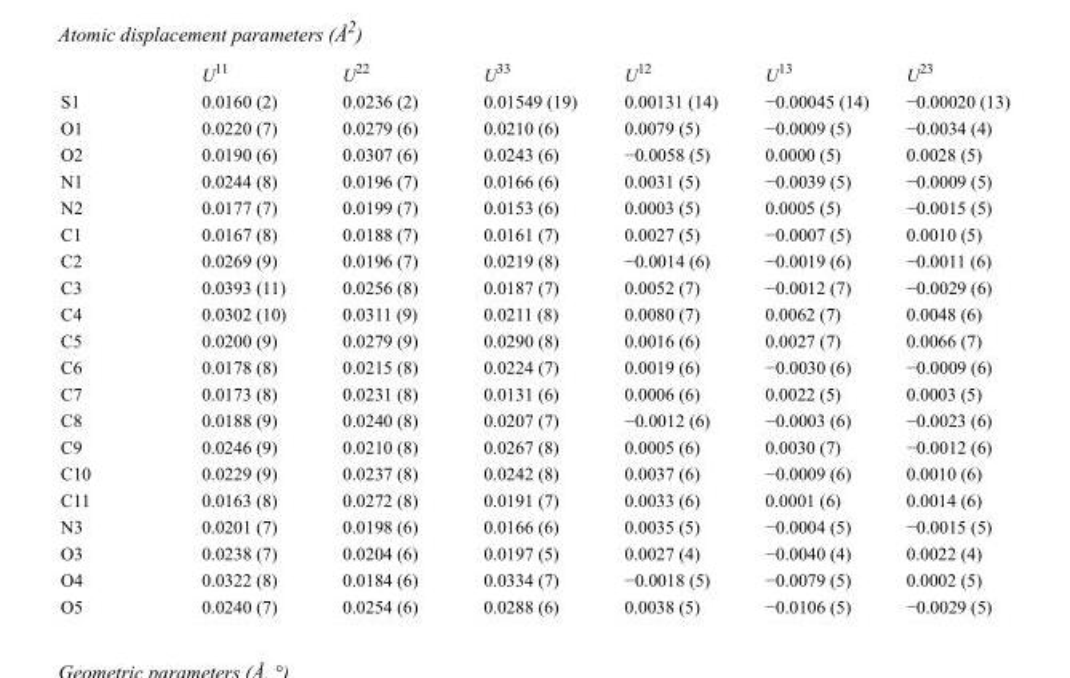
<table><thead><tr><td></td><td>U<sup>11</sup></td><td>U<sup>22</sup></td><td>U<sup>33</sup></td><td>U<sup>12</sup></td><td>U<sup>13</sup></td><td>U<sup>23</sup></td></tr></thead><tbody><tr><td>S1</td><td>0.0160 (2)</td><td>0.0236 (2)</td><td>0.01549 (19)</td><td>0.00131 (14)</td><td>−0.00045 (14)</td><td>−0.00020 (13)</td></tr><tr><td>O1</td><td>0.0220 (7)</td><td>0.0279 (6)</td><td>0.0210 (6)</td><td>0.0079 (5)</td><td>−0.0009 (5)</td><td>−0.0034 (4)</td></tr><tr><td>O2</td><td>0.0190 (6)</td><td>0.0307 (6)</td><td>0.0243 (6)</td><td>−0.0058 (5)</td><td>0.0000 (5)</td><td>0.0028 (5)</td></tr><tr><td>N1</td><td>0.0244 (8)</td><td>0.0196 (7)</td><td>0.0166 (6)</td><td>0.0031 (5)</td><td>−0.0039 (5)</td><td>−0.0009 (5)</td></tr><tr><td>N2</td><td>0.0177 (7)</td><td>0.0199 (7)</td><td>0.0153 (6)</td><td>0.0003 (5)</td><td>0.0005 (5)</td><td>−0.0015 (5)</td></tr><tr><td>C1</td><td>0.0167 (8)</td><td>0.0188 (7)</td><td>0.0161 (7)</td><td>0.0027 (5)</td><td>−0.0007 (5)</td><td>0.0010 (5)</td></tr><tr><td>C2</td><td>0.0269 (9)</td><td>0.0196 (7)</td><td>0.0219 (8)</td><td>−0.0014 (6)</td><td>−0.0019 (6)</td><td>−0.0011 (6)</td></tr><tr><td>C3</td><td>0.0393 (11)</td><td>0.0256 (8)</td><td>0.0187 (7)</td><td>0.0052 (7)</td><td>−0.0012 (7)</td><td>−0.0029 (6)</td></tr><tr><td>C4</td><td>0.0302 (10)</td><td>0.0311 (9)</td><td>0.0211 (8)</td><td>0.0080 (7)</td><td>0.0062 (7)</td><td>0.0048 (6)</td></tr><tr><td>C5</td><td>0.0200 (9)</td><td>0.0279 (9)</td><td>0.0290 (8)</td><td>0.0016 (6)</td><td>0.0027 (7)</td><td>0.0066 (7)</td></tr><tr><td>C6</td><td>0.0178 (8)</td><td>0.0215 (8)</td><td>0.0224 (7)</td><td>0.0019 (6)</td><td>−0.0030 (6)</td><td>−0.0009 (6)</td></tr><tr><td>C7</td><td>0.0173 (8)</td><td>0.0231 (8)</td><td>0.0131 (6)</td><td>0.0006 (6)</td><td>0.0022 (5)</td><td>0.0003 (5)</td></tr><tr><td>C8</td><td>0.0188 (9)</td><td>0.0240 (8)</td><td>0.0207 (7)</td><td>−0.0012 (6)</td><td>−0.0003 (6)</td><td>−0.0023 (6)</td></tr><tr><td>C9</td><td>0.0246 (9)</td><td>0.0210 (8)</td><td>0.0267 (8)</td><td>0.0005 (6)</td><td>0.0030 (7)</td><td>−0.0012 (6)</td></tr><tr><td>C10</td><td>0.0229 (9)</td><td>0.0237 (8)</td><td>0.0242 (8)</td><td>0.0037 (6)</td><td>−0.0009 (6)</td><td>0.0010 (6)</td></tr><tr><td>C11</td><td>0.0163 (8)</td><td>0.0272 (8)</td><td>0.0191 (7)</td><td>0.0033 (6)</td><td>0.0001 (6)</td><td>0.0014 (6)</td></tr><tr><td>N3</td><td>0.0201 (7)</td><td>0.0198 (6)</td><td>0.0166 (6)</td><td>0.0035 (5)</td><td>−0.0004 (5)</td><td>−0.0015 (5)</td></tr><tr><td>O3</td><td>0.0238 (7)</td><td>0.0204 (6)</td><td>0.0197 (5)</td><td>0.0027 (4)</td><td>−0.0040 (4)</td><td>0.0022 (4)</td></tr><tr><td>O4</td><td>0.0322 (8)</td><td>0.0184 (6)</td><td>0.0334 (7)</td><td>−0.0018 (5)</td><td>−0.0079 (5)</td><td>0.0002 (5)</td></tr><tr><td>O5</td><td>0.0240 (7)</td><td>0.0254 (6)</td><td>0.0288 (6)</td><td>0.0038 (5)</td><td>−0.0106 (5)</td><td>−0.0029 (5)</td></tr></tbody></table>